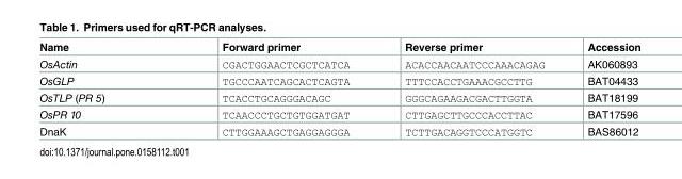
<table><thead><tr><td>Name</td><td>Forward primer</td><td>Reverse primer</td><td>Accession</td></tr></thead><tbody><tr><td>OsActin</td><td>CGACTGGAACTCGCTCATCA</td><td>ACACCAACAATCCCAAACAGAG</td><td>AK060893</td></tr><tr><td>OsGLP</td><td>TGCCCAATCAGCACTCAGTA</td><td>TTTCCACCTGAAACGCCTTG</td><td>BAT04433</td></tr><tr><td>OsTLP (PR 5)</td><td>TCACCTGCAGGGACAGC</td><td>GGGCAGAAGACGACTTGGTA</td><td>BAT18199</td></tr><tr><td>OsPR 10</td><td>TCAACCCTGCTGTGGATGAT</td><td>CTTGAGCTTGCCCACCTTAC</td><td>BAT17596</td></tr><tr><td>DnaK</td><td>CTTGGAAAGCTGAGGAGGGA</td><td>TCTTGACAGGTCCCATGGTC</td><td>BAS86012</td></tr></tbody></table>